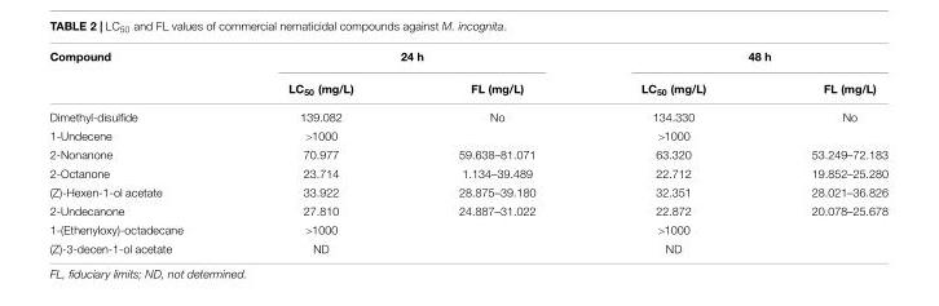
<table><thead><tr><td rowspan="2">Compound</td><td colspan="2">24 h</td><td colspan="2">48 h</td></tr><tr><td>LC<sub>50</sub> (mg/L)</td><td>FL (mg/L)</td><td>LC<sub>50</sub> (mg/L)</td><td>FL (mg/L)</td></tr></thead><tbody><tr><td>Dimethyl-disulfide</td><td>139.082</td><td>No</td><td>134.330</td><td>No</td></tr><tr><td>1-Undecene</td><td>&gt;1000</td><td></td><td>&gt;1000</td><td></td></tr><tr><td>2-Nonanone</td><td>70.977</td><td>59.638–81.071</td><td>63.320</td><td>53.249–72.183</td></tr><tr><td>2-Octanone</td><td>23.714</td><td>1.134–39.489</td><td>22.712</td><td>19.852–25.280</td></tr><tr><td>(Z)-Hexen-1-ol acetate</td><td>33.922</td><td>28.875–39.180</td><td>32.351</td><td>28.021–36.826</td></tr><tr><td>2-Undecanone</td><td>27.810</td><td>24.887–31.022</td><td>22.872</td><td>20.078–25.678</td></tr><tr><td>1-(Ethenyloxy)-octadecane</td><td>&gt;1000</td><td></td><td>&gt;1000</td><td></td></tr><tr><td>(Z)-3-decen-1-ol acetate</td><td>ND</td><td></td><td>ND</td><td></td></tr></tbody></table>